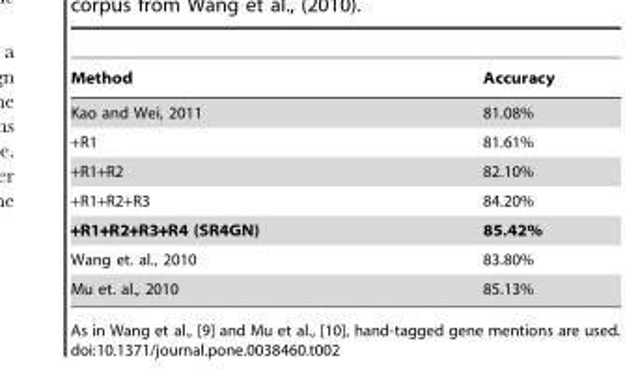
<table><thead><tr><td>Method</td><td>Accuracy</td></tr></thead><tbody><tr><td>Kao and Wei, 2011</td><td>81.08%</td></tr><tr><td>+R1</td><td>81.61%</td></tr><tr><td>+R1+R2</td><td>82.10%</td></tr><tr><td>+R1+R2+R3</td><td>84.20%</td></tr><tr><td>+R1+R2+R3+R4 (SR4GN)</td><td>85.42%</td></tr><tr><td>Wang et. al., 2010</td><td>83.80%</td></tr><tr><td>Mu et. al., 2010</td><td>85.13%</td></tr></tbody></table>